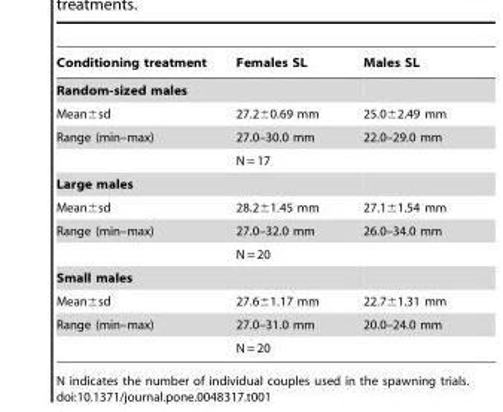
<table><thead><tr><td>Conditioning treatment</td><td>Females SL</td><td>Males SL</td></tr></thead><tbody><tr><td colspan="3">Random-sized males</td></tr><tr><td>Mean±sd</td><td>27.2±0.69 mm</td><td>25.0±2.49 mm</td></tr><tr><td rowspan="2">Range (min–max)</td><td>27.0–30.0 mm</td><td>22.0–29.0 mm</td></tr><tr><td>N = 17</td><td></td></tr><tr><td colspan="3">Large males</td></tr><tr><td>Mean±sd</td><td>28.2±1.45 mm</td><td>27.1±1.54 mm</td></tr><tr><td rowspan="2">Range (min–max)</td><td>27.0–32.0 mm</td><td>26.0–34.0 mm</td></tr><tr><td>N = 20</td><td></td></tr><tr><td colspan="3">Small males</td></tr><tr><td>Mean±sd</td><td>27.6±1.17 mm</td><td>22.7±1.31 mm</td></tr><tr><td rowspan="2">Range (min–max)</td><td>27.0–31.0 mm</td><td>20.0–24.0 mm</td></tr><tr><td>N = 20</td><td></td></tr></tbody></table>